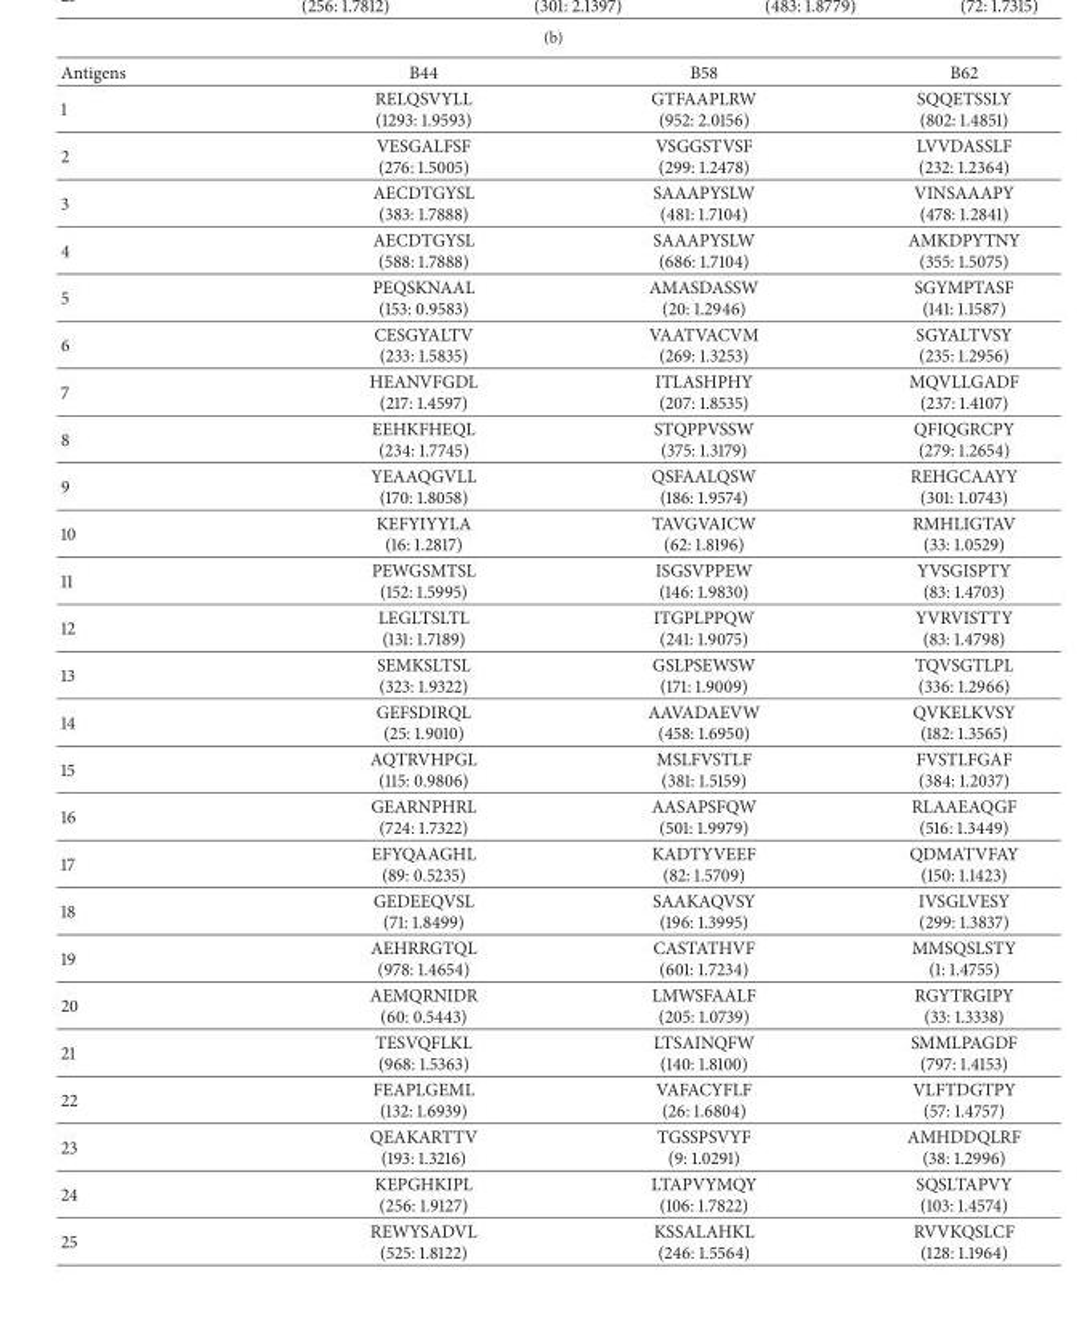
<table><thead><tr><td>Antigens</td><td>B44</td><td>B58</td><td>B62</td></tr></thead><tbody><tr><td>1</td><td>RELQSVYLL (1293: 1.9593)</td><td>GTFAAPLRW (952: 2.0156)</td><td>SQQETSSLY (802: 1.4851)</td></tr><tr><td>2</td><td>VESGALFSF (276: 1.5005)</td><td>VSGGSTVSF (299: 1.2478)</td><td>LVVDASSLF (232: 1.2364)</td></tr><tr><td>3</td><td>AECDTGYSL (383: 1.7888)</td><td>SAAAPYSLW (481: 1.7104)</td><td>VINSAAAPY (478: 1.2841)</td></tr><tr><td>4</td><td>AECDTGYSL (588: 1.7888)</td><td>SAAAPYSLW (686: 1.7104)</td><td>AMKDPYTNY (355: 1.5075)</td></tr><tr><td>5</td><td>PEQSKNAAL (153: 0.9583)</td><td>AMASDASSW (20: 1.2946)</td><td>SGYMPTASF (141: 1.1587)</td></tr><tr><td>6</td><td>CESGYALTV (233: 1.5835)</td><td>VAATVACVM (269: 1.3253)</td><td>SGYALTVSY (235: 1.2956)</td></tr><tr><td>7</td><td>HEANVFGDL (217: 1.4597)</td><td>ITLASHPHY (207: 1.8535)</td><td>MQVLLGADF (237: 1.4107)</td></tr><tr><td>8</td><td>EEHKFHEQL (234: 1.7745)</td><td>STQPPVSSW (375: 1.3179)</td><td>QFIQGRCPY (279: 1.2654)</td></tr><tr><td>9</td><td>YEAAQGVLL (170: 1.8058)</td><td>QSFAALQSW (186: 1.9574)</td><td>REHGCAAYY (301: 1.0743)</td></tr><tr><td>10</td><td>KEFYIYYLA (16: 1.2817)</td><td>TAVGVAICW (62: 1.8196)</td><td>RMHLIGTAV (33: 1.0529)</td></tr><tr><td>11</td><td>PEWGSMTSL (152: 1.5995)</td><td>ISGSVPPEW (146: 1.9830)</td><td>YVSGISPTY (83: 1.4703)</td></tr><tr><td>12</td><td>LEGLTSLTL (131: 1.7189)</td><td>ITGPLPPQW (241: 1.9075)</td><td>YVRVISTTY (83: 1.4798)</td></tr><tr><td>13</td><td>SEMKSLTSL (323: 1.9322)</td><td>GSLPSEWSW (171: 1.9009)</td><td>TQVSGTLPL (336: 1.2966)</td></tr><tr><td>14</td><td>GEFSDIRQL (25: 1.9010)</td><td>AAVADAEVW (458: 1.6950)</td><td>QVKELKVSY (182: 1.3565)</td></tr><tr><td>15</td><td>AQTRVHPGL (115: 0.9806)</td><td>MSLFVSTLF (381: 1.5159)</td><td>FVSTLFGAF (384: 1.2037)</td></tr><tr><td>16</td><td>GEARNPHRL (724: 1.7322)</td><td>AASAPSFQW (501: 1.9979)</td><td>RLAAEAQGF (516: 1.3449)</td></tr><tr><td>17</td><td>EFYQAAGHL (89: 0.5235)</td><td>KADTYVEEF (82: 1.5709)</td><td>QDMATVFAY (150: 1.1423)</td></tr><tr><td>18</td><td>GEDEEQVSL (71: 1.8499)</td><td>SAAKAQVSY (196: 1.3995)</td><td>IVSGLVESY (299: 1.3837)</td></tr><tr><td>19</td><td>AEHRRGTQL (978: 1.4654)</td><td>CASTATHVF (601: 1.7234)</td><td>MMSQSLSTY (1: 1.4755)</td></tr><tr><td>20</td><td>AEMQRNIDR (60: 0.5443)</td><td>LMWSFAALF (205: 1.0739)</td><td>RGYTRGIPY (33: 1.3338)</td></tr><tr><td>21</td><td>TESVQFLKL (968: 1.5363)</td><td>LTSAINQFW (140: 1.8100)</td><td>SMMLPAGDF (797: 1.4153)</td></tr><tr><td>22</td><td>FEAPLGEML (132: 1.6939)</td><td>VAFACYFLF (26: 1.6804)</td><td>VLFTDGTPY (57: 1.4757)</td></tr><tr><td>23</td><td>QEAKARTTV (193: 1.3216)</td><td>TGSSPSVYF (9: 1.0291)</td><td>AMHDDQLRF (38: 1.2996)</td></tr><tr><td>24</td><td>KEPGHKIPL (256: 1.9127)</td><td>LTAPVYMQY (106: 1.7822)</td><td>SQSLTAPVY (103: 1.4574)</td></tr><tr><td>25</td><td>REWYSADVL (525: 1.8122)</td><td>KSSALAHKL (246: 1.5564)</td><td>RVVKQSLCF (128: 1.1964)</td></tr></tbody></table>